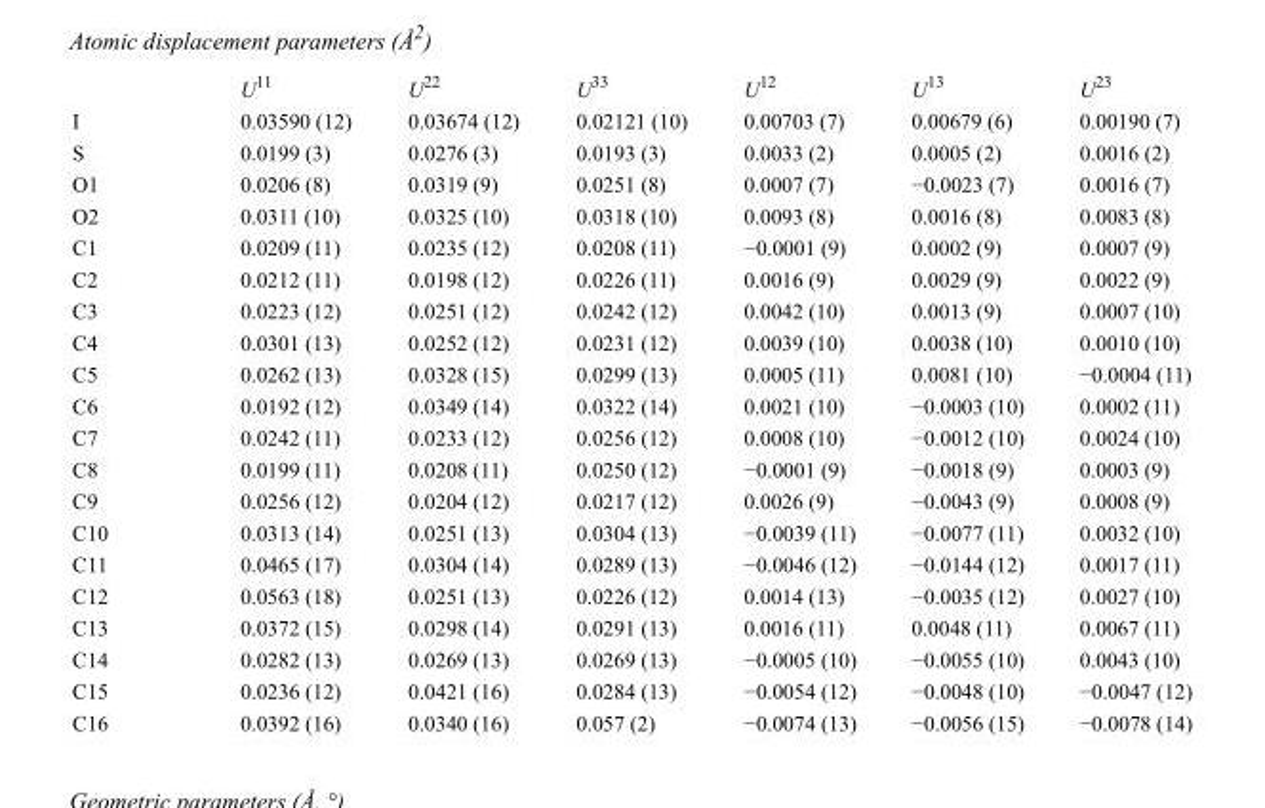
<table><thead><tr><td></td><td>U<sup>11</sup></td><td>U<sup>22</sup></td><td>U<sup>33</sup></td><td>U<sup>12</sup></td><td>U<sup>13</sup></td><td>U<sup>23</sup></td></tr></thead><tbody><tr><td>I</td><td>0.03590 (12)</td><td>0.03674 (12)</td><td>0.02121 (10)</td><td>0.00703 (7)</td><td>0.00679 (6)</td><td>0.00190 (7)</td></tr><tr><td>S</td><td>0.0199 (3)</td><td>0.0276 (3)</td><td>0.0193 (3)</td><td>0.0033 (2)</td><td>0.0005 (2)</td><td>0.0016 (2)</td></tr><tr><td>O1</td><td>0.0206 (8)</td><td>0.0319 (9)</td><td>0.0251 (8)</td><td>0.0007 (7)</td><td>−0.0023 (7)</td><td>0.0016 (7)</td></tr><tr><td>O2</td><td>0.0311 (10)</td><td>0.0325 (10)</td><td>0.0318 (10)</td><td>0.0093 (8)</td><td>0.0016 (8)</td><td>0.0083 (8)</td></tr><tr><td>C1</td><td>0.0209 (11)</td><td>0.0235 (12)</td><td>0.0208 (11)</td><td>−0.0001 (9)</td><td>0.0002 (9)</td><td>0.0007 (9)</td></tr><tr><td>C2</td><td>0.0212 (11)</td><td>0.0198 (12)</td><td>0.0226 (11)</td><td>0.0016 (9)</td><td>0.0029 (9)</td><td>0.0022 (9)</td></tr><tr><td>C3</td><td>0.0223 (12)</td><td>0.0251 (12)</td><td>0.0242 (12)</td><td>0.0042 (10)</td><td>0.0013 (9)</td><td>0.0007 (10)</td></tr><tr><td>C4</td><td>0.0301 (13)</td><td>0.0252 (12)</td><td>0.0231 (12)</td><td>0.0039 (10)</td><td>0.0038 (10)</td><td>0.0010 (10)</td></tr><tr><td>C5</td><td>0.0262 (13)</td><td>0.0328 (15)</td><td>0.0299 (13)</td><td>0.0005 (11)</td><td>0.0081 (10)</td><td>−0.0004 (11)</td></tr><tr><td>C6</td><td>0.0192 (12)</td><td>0.0349 (14)</td><td>0.0322 (14)</td><td>0.0021 (10)</td><td>−0.0003 (10)</td><td>0.0002 (11)</td></tr><tr><td>C7</td><td>0.0242 (11)</td><td>0.0233 (12)</td><td>0.0256 (12)</td><td>0.0008 (10)</td><td>−0.0012 (10)</td><td>0.0024 (10)</td></tr><tr><td>C8</td><td>0.0199 (11)</td><td>0.0208 (11)</td><td>0.0250 (12)</td><td>−0.0001 (9)</td><td>−0.0018 (9)</td><td>0.0003 (9)</td></tr><tr><td>C9</td><td>0.0256 (12)</td><td>0.0204 (12)</td><td>0.0217 (12)</td><td>0.0026 (9)</td><td>−0.0043 (9)</td><td>0.0008 (9)</td></tr><tr><td>C10</td><td>0.0313 (14)</td><td>0.0251 (13)</td><td>0.0304 (13)</td><td>−0.0039 (11)</td><td>−0.0077 (11)</td><td>0.0032 (10)</td></tr><tr><td>C11</td><td>0.0465 (17)</td><td>0.0304 (14)</td><td>0.0289 (13)</td><td>−0.0046 (12)</td><td>−0.0144 (12)</td><td>0.0017 (11)</td></tr><tr><td>C12</td><td>0.0563 (18)</td><td>0.0251 (13)</td><td>0.0226 (12)</td><td>0.0014 (13)</td><td>−0.0035 (12)</td><td>0.0027 (10)</td></tr><tr><td>C13</td><td>0.0372 (15)</td><td>0.0298 (14)</td><td>0.0291 (13)</td><td>0.0016 (11)</td><td>0.0048 (11)</td><td>0.0067 (11)</td></tr><tr><td>C14</td><td>0.0282 (13)</td><td>0.0269 (13)</td><td>0.0269 (13)</td><td>−0.0005 (10)</td><td>−0.0055 (10)</td><td>0.0043 (10)</td></tr><tr><td>C15</td><td>0.0236 (12)</td><td>0.0421 (16)</td><td>0.0284 (13)</td><td>−0.0054 (12)</td><td>−0.0048 (10)</td><td>−0.0047 (12)</td></tr><tr><td>C16</td><td>0.0392 (16)</td><td>0.0340 (16)</td><td>0.057 (2)</td><td>−0.0074 (13)</td><td>−0.0056 (15)</td><td>−0.0078 (14)</td></tr></tbody></table>